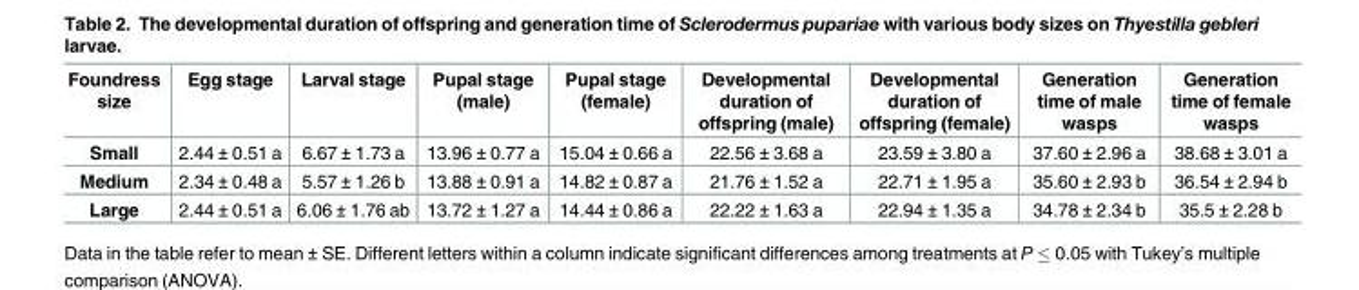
<table><thead><tr><td>Foundress size</td><td>Egg stage</td><td>Larval stage</td><td>Pupal stage (male)</td><td>Pupal stage (female)</td><td>Developmental duration of offspring (male)</td><td>Developmental duration of offspring (female)</td><td>Generation time of male wasps</td><td>Generation time of female wasps</td></tr></thead><tbody><tr><td>Small</td><td>2.44 ± 0.51 a</td><td>6.67 ± 1.73 a</td><td>13.96 ± 0.77 a</td><td>15.04 ± 0.66 a</td><td>22.56 ± 3.68 a</td><td>23.59 ± 3.80 a</td><td>37.60 ± 2.96 a</td><td>38.68 ± 3.01 a</td></tr><tr><td>Medium</td><td>2.34 ± 0.48 a</td><td>5.57 ± 1.26 b</td><td>13.88 ± 0.91 a</td><td>14.82 ± 0.87 a</td><td>21.76 ± 1.52 a</td><td>22.71 ± 1.95 a</td><td>35.60 ± 2.93 b</td><td>36.54 ± 2.94 b</td></tr><tr><td>Large</td><td>2.44 ± 0.51 a</td><td>6.06 ± 1.76 ab</td><td>13.72 ± 1.27 a</td><td>14.44 ± 0.86 a</td><td>22.22 ± 1.63 a</td><td>22.94 ± 1.35 a</td><td>34.78 ± 2.34 b</td><td>35.5 ± 2.28 b</td></tr></tbody></table>